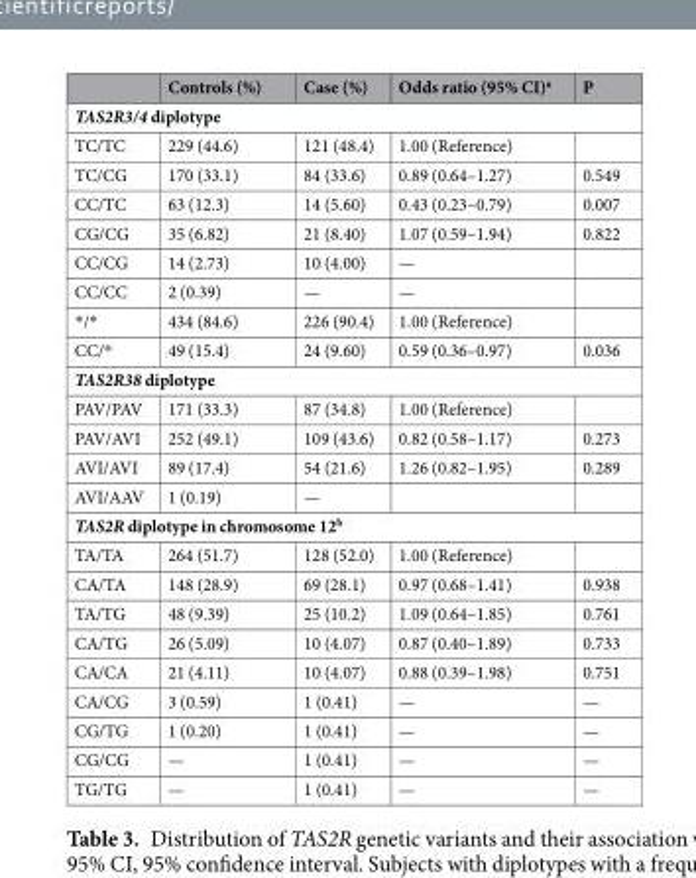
<table><thead><tr><td></td><td>Controls (%)</td><td>Case (%)</td><td>Odds ratio (95% CI)<sup>a</sup></td><td>P</td></tr></thead><tbody><tr><td colspan="5">TAS2R3/4 diplotype</td></tr><tr><td>TC/TC</td><td>229 (44.6)</td><td>121 (48.4)</td><td>1.00 (Reference)</td><td></td></tr><tr><td>TC/CG</td><td>170 (33.1)</td><td>84 (33.6)</td><td>0.89 (0.64–1.27)</td><td>0.549</td></tr><tr><td>CC/TC</td><td>63 (12.3)</td><td>14 (5.60)</td><td>0.43 (0.23–0.79)</td><td>0.007</td></tr><tr><td>CG/CG</td><td>35 (6.82)</td><td>21 (8.40)</td><td>1.07 (0.59–1.94)</td><td>0.822</td></tr><tr><td>CC/CG</td><td>14 (2.73)</td><td>10 (4.00)</td><td>—</td><td></td></tr><tr><td>CC/CC</td><td>2 (0.39)</td><td>—</td><td>—</td><td></td></tr><tr><td>*/*</td><td>434 (84.6)</td><td>226 (90.4)</td><td>1.00 (Reference)</td><td></td></tr><tr><td>CC/*</td><td>49 (15.4)</td><td>24 (9.60)</td><td>0.59 (0.36–0.97)</td><td>0.036</td></tr><tr><td colspan="5">TAS2R38 diplotype</td></tr><tr><td>PAV/PAV</td><td>171 (33.3)</td><td>87 (34.8)</td><td>1.00 (Reference)</td><td></td></tr><tr><td>PAV/AVI</td><td>252 (49.1)</td><td>109 (43.6)</td><td>0.82 (0.58–1.17)</td><td>0.273</td></tr><tr><td>AVI/AVI</td><td>89 (17.4)</td><td>54 (21.6)</td><td>1.26 (0.82–1.95)</td><td>0.289</td></tr><tr><td>AVI/AAV</td><td>1 (0.19)</td><td>—</td><td></td><td></td></tr><tr><td colspan="5">TAS2R diplotype in chromosome 12<sup>b</sup></td></tr><tr><td>TA/TA</td><td>264 (51.7)</td><td>128 (52.0)</td><td>1.00 (Reference)</td><td></td></tr><tr><td>CA/TA</td><td>148 (28.9)</td><td>69 (28.1)</td><td>0.97 (0.68–1.41)</td><td>0.938</td></tr><tr><td>TA/TG</td><td>48 (9.39)</td><td>25 (10.2)</td><td>1.09 (0.64–1.85)</td><td>0.761</td></tr><tr><td>CA/TG</td><td>26 (5.09)</td><td>10 (4.07)</td><td>0.87 (0.40–1.89)</td><td>0.733</td></tr><tr><td>CA/CA</td><td>21 (4.11)</td><td>10 (4.07)</td><td>0.88 (0.39–1.98)</td><td>0.751</td></tr><tr><td>CA/CG</td><td>3 (0.59)</td><td>1 (0.41)</td><td>—</td><td>—</td></tr><tr><td>CG/TG</td><td>1 (0.20)</td><td>1 (0.41)</td><td>—</td><td>—</td></tr><tr><td>CG/CG</td><td>—</td><td>1 (0.41)</td><td>—</td><td>—</td></tr><tr><td>TG/TG</td><td>—</td><td>1 (0.41)</td><td>—</td><td>—</td></tr></tbody></table>